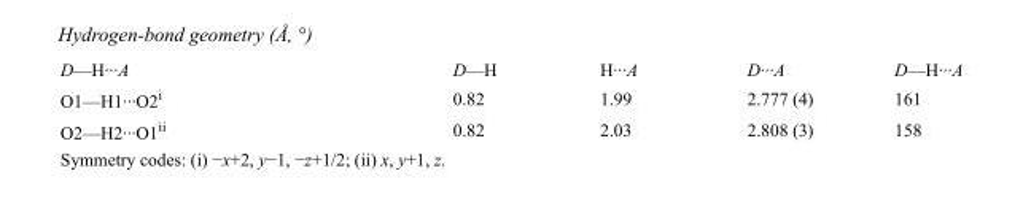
<table><tbody><tr><td>D—H···A</td><td>D—H</td><td>H···A</td><td>D···A</td><td>D—H···A</td></tr><tr><td>O1—H1···O2<sup>i</sup></td><td>0.82</td><td>1.99</td><td>2.777 (4)</td><td>161</td></tr><tr><td>O2—H2···O1<sup>ii</sup></td><td>0.82</td><td>2.03</td><td>2.808 (3)</td><td>158</td></tr></tbody></table>